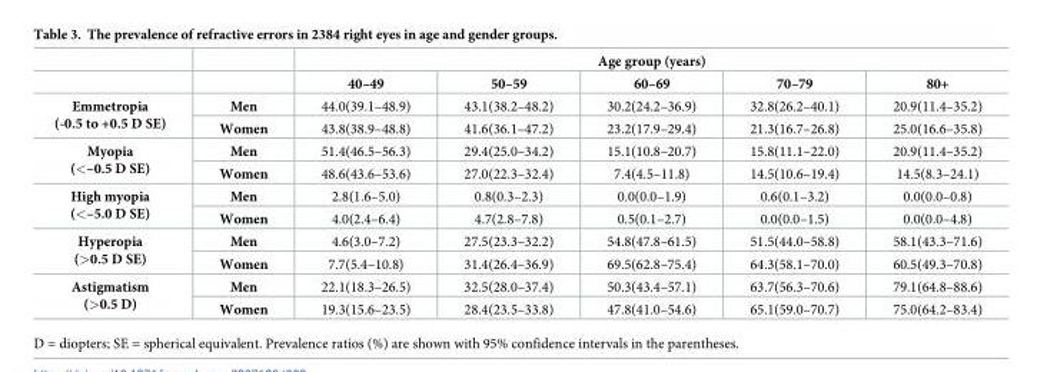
<table><thead><tr><td rowspan="2"></td><td rowspan="2"></td><td colspan="5">Age group (years)</td></tr><tr><td>40–49</td><td>50–59</td><td>60–69</td><td>70–79</td><td>80+</td></tr></thead><tbody><tr><td rowspan="2">Emmetropia (-0.5 to +0.5 D SE)</td><td>Men</td><td>44.0(39.1–48.9)</td><td>43.1(38.2–48.2)</td><td>30.2(24.2–36.9)</td><td>32.8(26.2–40.1)</td><td>20.9(11.4–35.2)</td></tr><tr><td>Women</td><td>43.8(38.9–48.8)</td><td>41.6(36.1–47.2)</td><td>23.2(17.9–29.4)</td><td>21.3(16.7–26.8)</td><td>25.0(16.6–35.8)</td></tr><tr><td rowspan="2">Myopia (&lt;–0.5 D SE)</td><td>Men</td><td>51.4(46.5–56.3)</td><td>29.4(25.0–34.2)</td><td>15.1(10.8–20.7)</td><td>15.8(11.1–22.0)</td><td>20.9(11.4–35.2)</td></tr><tr><td>Women</td><td>48.6(43.6–53.6)</td><td>27.0(22.3–32.4)</td><td>7.4(4.5–11.8)</td><td>14.5(10.6–19.4)</td><td>14.5(8.3–24.1)</td></tr><tr><td rowspan="2">High myopia (&lt;–5.0 D SE)</td><td>Men</td><td>2.8(1.6–5.0)</td><td>0.8(0.3–2.3)</td><td>0.0(0.0–1.9)</td><td>0.6(0.1–3.2)</td><td>0.0(0.0–0.8)</td></tr><tr><td>Women</td><td>4.0(2.4–6.4)</td><td>4.7(2.8–7.8)</td><td>0.5(0.1–2.7)</td><td>0.0(0.0–1.5)</td><td>0.0(0.0–4.8)</td></tr><tr><td rowspan="2">Hyperopia (&gt;0.5 D SE)</td><td>Men</td><td>4.6(3.0–7.2)</td><td>27.5(23.3–32.2)</td><td>54.8(47.8–61.5)</td><td>51.5(44.0–58.8)</td><td>58.1(43.3–71.6)</td></tr><tr><td>Women</td><td>7.7(5.4–10.8)</td><td>31.4(26.4–36.9)</td><td>69.5(62.8–75.4)</td><td>64.3(58.1–70.0)</td><td>60.5(49.3–70.8)</td></tr><tr><td rowspan="2">Astigmatism (&gt;0.5 D)</td><td>Men</td><td>22.1(18.3–26.5)</td><td>32.5(28.0–37.4)</td><td>50.3(43.4–57.1)</td><td>63.7(56.3–70.6)</td><td>79.1(64.8–88.6)</td></tr><tr><td>Women</td><td>19.3(15.6–23.5)</td><td>28.4(23.5–33.8)</td><td>47.8(41.0–54.6)</td><td>65.1(59.0–70.7)</td><td>75.0(64.2–83.4)</td></tr></tbody></table>